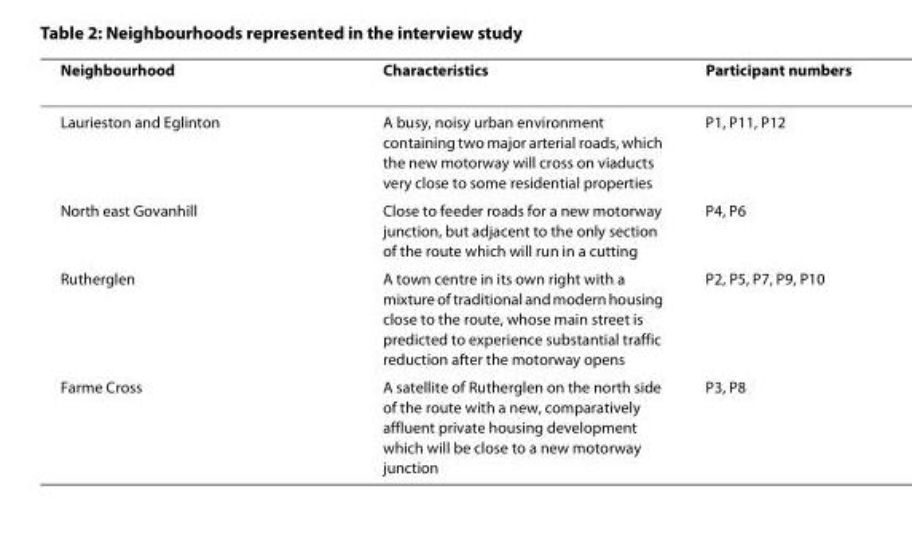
<table><thead><tr><td>Neighbourhood</td><td>Characteristics</td><td>Participant numbers</td></tr></thead><tbody><tr><td>Laurieston and Eglinton</td><td>A busy, noisy urban environment containing two major arterial roads, which the new motorway will cross on viaducts very close to some residential properties</td><td>P1, P11, P12</td></tr><tr><td>North east Govanhill</td><td>Close to feeder roads for a new motorway junction, but adjacent to the only section of the route which will run in a cutting</td><td>P4, P6</td></tr><tr><td>Rutherglen</td><td>A town centre in its own right with a mixture of traditional and modern housing close to the route, whose main street is predicted to experience substantial traffic reduction after the motorway opens</td><td>P2, P5, P7, P9, P10</td></tr><tr><td>Farme Cross</td><td>A satellite of Rutherglen on the north side of the route with a new, comparatively affluent private housing development which will be close to a new motorway junction</td><td>P3, P8</td></tr></tbody></table>